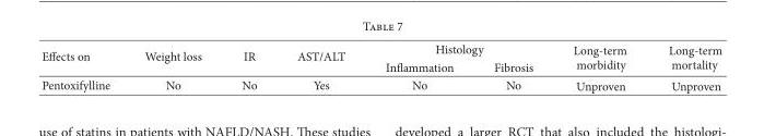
<table><thead><tr><td rowspan="2">Effects on</td><td rowspan="2">Weight loss</td><td rowspan="2">IR</td><td rowspan="2">AST/ALT</td><td colspan="2">Histology</td><td rowspan="2">Long-term morbidity</td><td rowspan="2">Long-term mortality</td></tr><tr><td>Inflammation</td><td>Fibrosis</td></tr></thead><tbody><tr><td>Pentoxifylline</td><td>No</td><td>No</td><td>Yes</td><td>No</td><td>No</td><td>Unproven</td><td>Unproven</td></tr></tbody></table>